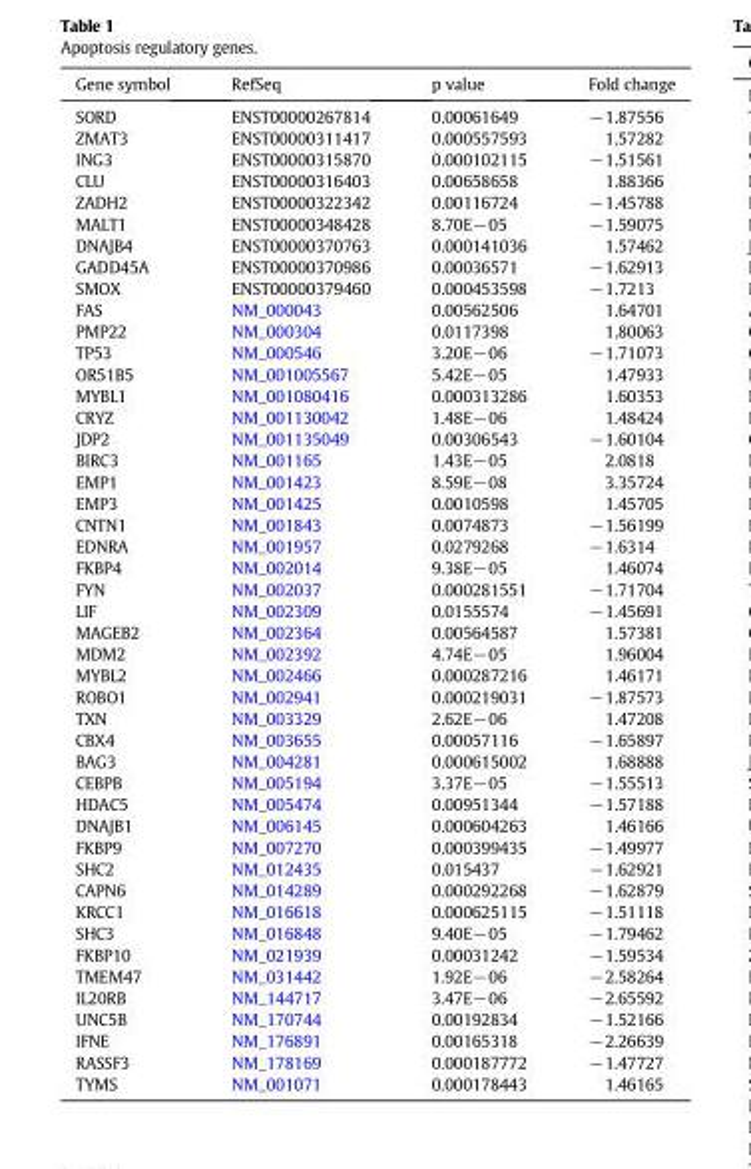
<table><thead><tr><td>Gene symbol</td><td>RefSeq</td><td>p value</td><td>Fold change</td></tr></thead><tbody><tr><td>SORD</td><td>ENST00000267814</td><td>0.00061649</td><td>−1.87556</td></tr><tr><td>ZMAT3</td><td>ENST00000311417</td><td>0.000557593</td><td>1.57282</td></tr><tr><td>ING3</td><td>ENST00000315870</td><td>0.000102115</td><td>−1.51561</td></tr><tr><td>CLU</td><td>ENST00000316403</td><td>0.00658658</td><td>1.88366</td></tr><tr><td>ZADH2</td><td>ENST00000322342</td><td>0.00116724</td><td>−1.45788</td></tr><tr><td>MALT1</td><td>ENST00000348428</td><td>8.70E−05</td><td>−1.59075</td></tr><tr><td>DNAJB4</td><td>ENST00000370763</td><td>0.000141036</td><td>1.57462</td></tr><tr><td>GADD45A</td><td>ENST00000370986</td><td>0.00036571</td><td>−1.62913</td></tr><tr><td>SMOX</td><td>ENST00000379460</td><td>0.000453598</td><td>−1.7213</td></tr><tr><td>FAS</td><td>NM_000043</td><td>0.00562506</td><td>1.64701</td></tr><tr><td>PMP22</td><td>NM_000304</td><td>0.0117398</td><td>1.80063</td></tr><tr><td>TP53</td><td>NM_000546</td><td>3.20E−06</td><td>−1.71073</td></tr><tr><td>OR51B5</td><td>NM_001005567</td><td>5.42E−05</td><td>1.47933</td></tr><tr><td>MYBL1</td><td>NM_001080416</td><td>0.000313286</td><td>1.60353</td></tr><tr><td>CRYZ</td><td>NM_001130042</td><td>1.48E−06</td><td>1.48424</td></tr><tr><td>JDP2</td><td>NM_001135049</td><td>0.00306543</td><td>−1.60104</td></tr><tr><td>BIRC3</td><td>NM_001165</td><td>1.43E−05</td><td>2.0818</td></tr><tr><td>EMP1</td><td>NM_001423</td><td>8.59E−08</td><td>3.35724</td></tr><tr><td>EMP3</td><td>NM_001425</td><td>0.0010598</td><td>1.45705</td></tr><tr><td>CNTN1</td><td>NM_001843</td><td>0.0074873</td><td>−1.56199</td></tr><tr><td>EDNRA</td><td>NM_001957</td><td>0.0279268</td><td>−1.6314</td></tr><tr><td>FKBP4</td><td>NM_002014</td><td>9.38E−05</td><td>1.46074</td></tr><tr><td>FYN</td><td>NM_002037</td><td>0.000281551</td><td>−1.71704</td></tr><tr><td>LIF</td><td>NM_002309</td><td>0.0155574</td><td>−1.45691</td></tr><tr><td>MAGEB2</td><td>NM_002364</td><td>0.00564587</td><td>1.57381</td></tr><tr><td>MDM2</td><td>NM_002392</td><td>4.74E−05</td><td>1.96004</td></tr><tr><td>MYBL2</td><td>NM_002466</td><td>0.000287216</td><td>1.46171</td></tr><tr><td>ROBO1</td><td>NM_002941</td><td>0.000219031</td><td>−1.87573</td></tr><tr><td>TXN</td><td>NM_003329</td><td>2.62E−06</td><td>1.47208</td></tr><tr><td>CBX4</td><td>NM_003655</td><td>0.00057116</td><td>−1.65897</td></tr><tr><td>BAG3</td><td>NM_004281</td><td>0.000615002</td><td>1.68888</td></tr><tr><td>CEBPB</td><td>NM_005194</td><td>3.37E−05</td><td>−1.55513</td></tr><tr><td>HDAC5</td><td>NM_005474</td><td>0.00951344</td><td>−1.57188</td></tr><tr><td>DNAJB1</td><td>NM_006145</td><td>0.000604263</td><td>1.46166</td></tr><tr><td>FKBP9</td><td>NM_007270</td><td>0.000399435</td><td>−1.49977</td></tr><tr><td>SHC2</td><td>NM_012435</td><td>0.015437</td><td>−1.62921</td></tr><tr><td>CAPN6</td><td>NM_014289</td><td>0.000292268</td><td>−1.62879</td></tr><tr><td>KRCC1</td><td>NM_016618</td><td>0.000625115</td><td>−1.51118</td></tr><tr><td>SHC3</td><td>NM_016848</td><td>9.40E−05</td><td>−1.79462</td></tr><tr><td>FKBP10</td><td>NM_021939</td><td>0.00031242</td><td>−1.59534</td></tr><tr><td>TMEM47</td><td>NM_031442</td><td>1.92E−06</td><td>−2.58264</td></tr><tr><td>IL20RB</td><td>NM_144717</td><td>3.47E−06</td><td>−2.65592</td></tr><tr><td>UNC5B</td><td>NM_170744</td><td>0.00192834</td><td>−1.52166</td></tr><tr><td>IFNE</td><td>NM_176891</td><td>0.00165318</td><td>−2.26639</td></tr><tr><td>RASSF3</td><td>NM_178169</td><td>0.000187772</td><td>−1.47727</td></tr><tr><td>TYMS</td><td>NM_001071</td><td>0.000178443</td><td>1.46165</td></tr></tbody></table>